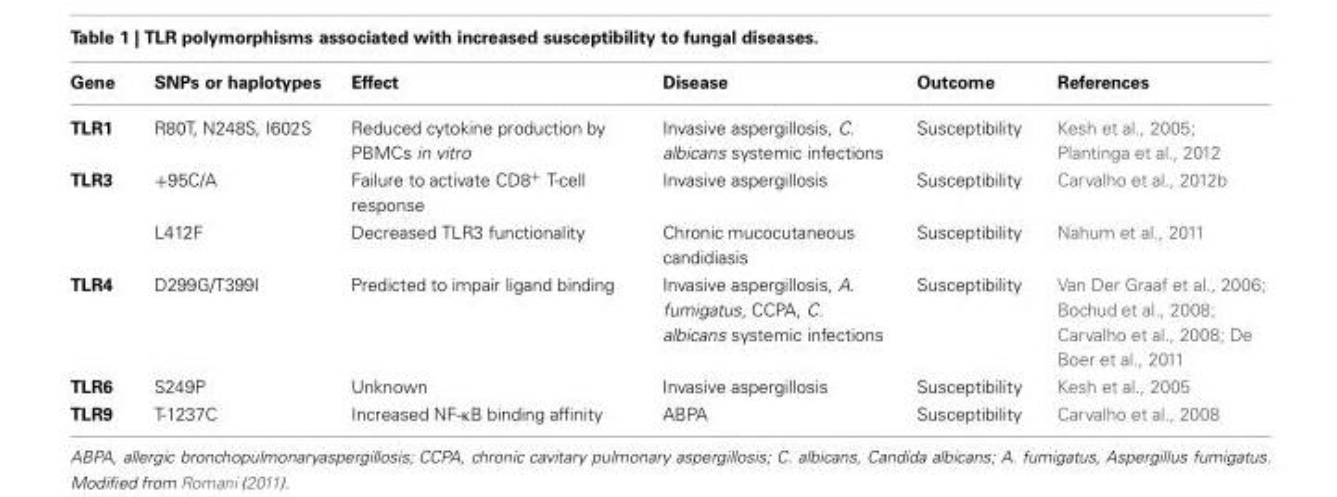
<table><thead><tr><td>Gene</td><td>SNPs or haplotypes</td><td>Effect</td><td>Disease</td><td>Outcome</td><td>References</td></tr></thead><tbody><tr><td>TLR1</td><td>R80T, N248S, I602S</td><td>Reduced cytokine production by PBMCs in vitro</td><td>Invasive aspergillosis, C. albicans systemic infections</td><td>Susceptibility</td><td>Kesh et al., 2005; Plantinga et al., 2012</td></tr><tr><td rowspan="2">TLR3</td><td>+95C/A</td><td>Failure to activate CD8<sup>+</sup> T-cell response</td><td>Invasive aspergillosis</td><td>Susceptibility</td><td>Carvalho et al., 2012b</td></tr><tr><td>L412F</td><td>Decreased TLR3 functionality</td><td>Chronic mucocutaneous candidiasis</td><td>Susceptibility</td><td>Nahum et al., 2011</td></tr><tr><td>TLR4</td><td>D299G/T399I</td><td>Predicted to impair ligand binding</td><td>Invasive aspergillosis, A. fumigatus, CCPA, C. albicans systemic infections</td><td>Susceptibility</td><td>Van Der Graaf et al., 2006; Bochud et al., 2008; Carvalho et al., 2008; De Boer et al., 2011</td></tr><tr><td>TLR6</td><td>S249P</td><td>Unknown</td><td>Invasive aspergillosis</td><td>Susceptibility</td><td>Kesh et al., 2005</td></tr><tr><td>TLR9</td><td>T-1237C</td><td>Increased NF-κB binding affinity</td><td>ABPA</td><td>Susceptibility</td><td>Carvalho et al., 2008</td></tr></tbody></table>